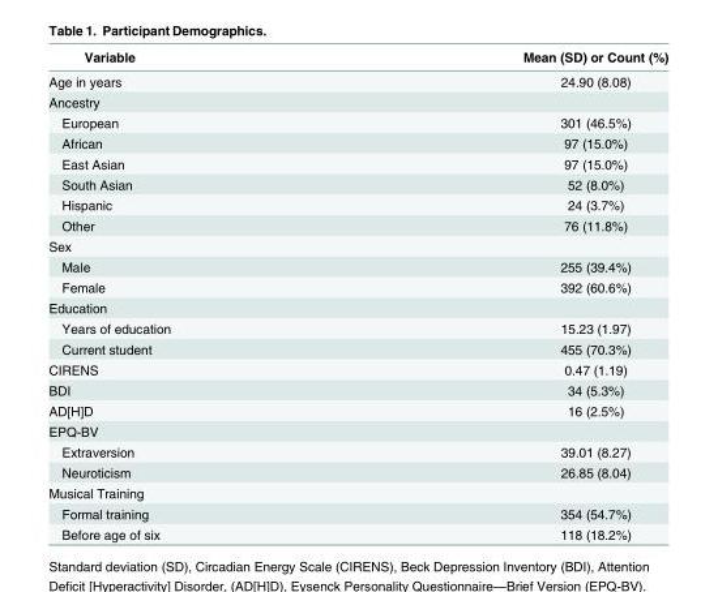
<table><thead><tr><td>Variable</td><td>Mean (SD) or Count (%)</td></tr></thead><tbody><tr><td>Age in years</td><td>24.90 (8.08)</td></tr><tr><td colspan="2">Ancestry</td></tr><tr><td>European</td><td>301 (46.5%)</td></tr><tr><td>African</td><td>97 (15.0%)</td></tr><tr><td>East Asian</td><td>97 (15.0%)</td></tr><tr><td>South Asian</td><td>52 (8.0%)</td></tr><tr><td>Hispanic</td><td>24 (3.7%)</td></tr><tr><td>Other</td><td>76 (11.8%)</td></tr><tr><td colspan="2">Sex</td></tr><tr><td>Male</td><td>255 (39.4%)</td></tr><tr><td>Female</td><td>392 (60.6%)</td></tr><tr><td colspan="2">Education</td></tr><tr><td>Years of education</td><td>15.23 (1.97)</td></tr><tr><td>Current student</td><td>455 (70.3%)</td></tr><tr><td>CIRENS</td><td>0.47 (1.19)</td></tr><tr><td>BDI</td><td>34 (5.3%)</td></tr><tr><td>AD[H]D</td><td>16 (2.5%)</td></tr><tr><td colspan="2">EPQ-BV</td></tr><tr><td>Extraversion</td><td>39.01 (8.27)</td></tr><tr><td>Neuroticism</td><td>26.85 (8.04)</td></tr><tr><td colspan="2">Musical Training</td></tr><tr><td>Formal training</td><td>354 (54.7%)</td></tr><tr><td>Before age of six</td><td>118 (18.2%)</td></tr></tbody></table>